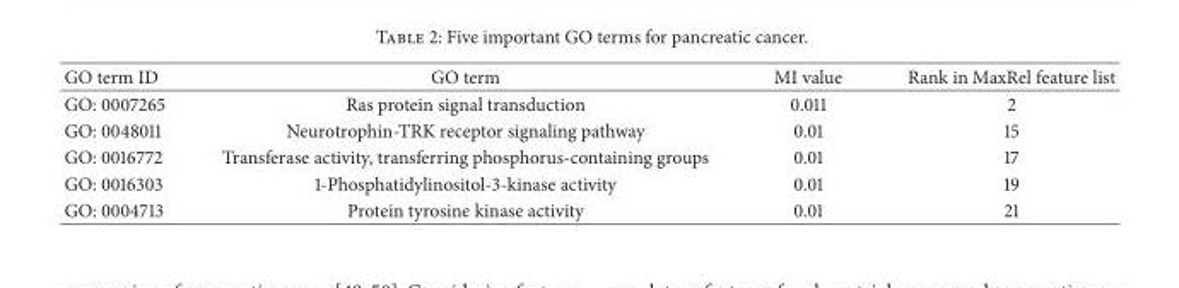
<table><thead><tr><td>GO term ID</td><td>GO term</td><td>MI value</td><td>Rank in MaxRel feature list</td></tr></thead><tbody><tr><td>GO: 0007265</td><td>Ras protein signal transduction</td><td>0.011</td><td>2</td></tr><tr><td>GO: 0048011</td><td>Neurotrophin-TRK receptor signaling pathway</td><td>0.01</td><td>15</td></tr><tr><td>GO: 0016772</td><td>Transferase activity, transferring phosphorus-containing groups</td><td>0.01</td><td>17</td></tr><tr><td>GO: 0016303</td><td>1-Phosphatidylinositol-3-kinase activity</td><td>0.01</td><td>19</td></tr><tr><td>GO: 0004713</td><td>Protein tyrosine kinase activity</td><td>0.01</td><td>21</td></tr></tbody></table>